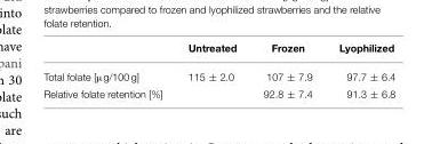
<table><thead><tr><td></td><td>Untreated</td><td>Frozen</td><td>Lyophilized</td></tr></thead><tbody><tr><td>Total folate [µg/100 g]</td><td>115 ± 2.0</td><td>107 ± 7.9</td><td>97.7 ± 6.4</td></tr><tr><td>Relative folate retention [%]</td><td></td><td>92.8 ± 7.4</td><td>91.3 ± 6.8</td></tr></tbody></table>